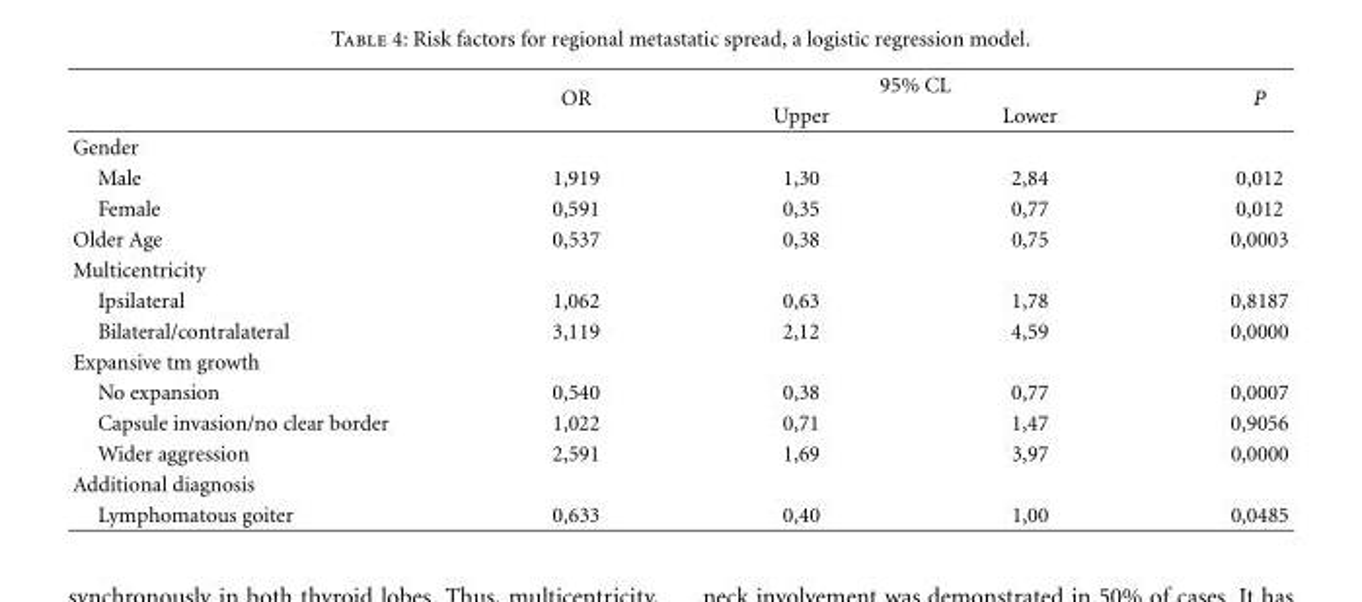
<table><thead><tr><td rowspan="2"></td><td rowspan="2">OR</td><td colspan="2">95% CL</td><td rowspan="2">P</td></tr><tr><td>Upper</td><td>Lower</td></tr></thead><tbody><tr><td colspan="5">Gender</td></tr><tr><td>Male</td><td>1,919</td><td>1,30</td><td>2,84</td><td>0,012</td></tr><tr><td>Female</td><td>0,591</td><td>0,35</td><td>0,77</td><td>0,012</td></tr><tr><td>Older Age</td><td>0,537</td><td>0,38</td><td>0,75</td><td>0,0003</td></tr><tr><td colspan="5">Multicentricity</td></tr><tr><td>Ipsilateral</td><td>1,062</td><td>0,63</td><td>1,78</td><td>0,8187</td></tr><tr><td>Bilateral/contralateral</td><td>3,119</td><td>2,12</td><td>4,59</td><td>0,0000</td></tr><tr><td colspan="5">Expansive tm growth</td></tr><tr><td>No expansion</td><td>0,540</td><td>0,38</td><td>0,77</td><td>0,0007</td></tr><tr><td>Capsule invasion/no clear border</td><td>1,022</td><td>0,71</td><td>1,47</td><td>0,9056</td></tr><tr><td>Wider aggression</td><td>2,591</td><td>1,69</td><td>3,97</td><td>0,0000</td></tr><tr><td colspan="5">Additional diagnosis</td></tr><tr><td>Lymphomatous goiter</td><td>0,633</td><td>0,40</td><td>1,00</td><td>0,0485</td></tr></tbody></table>